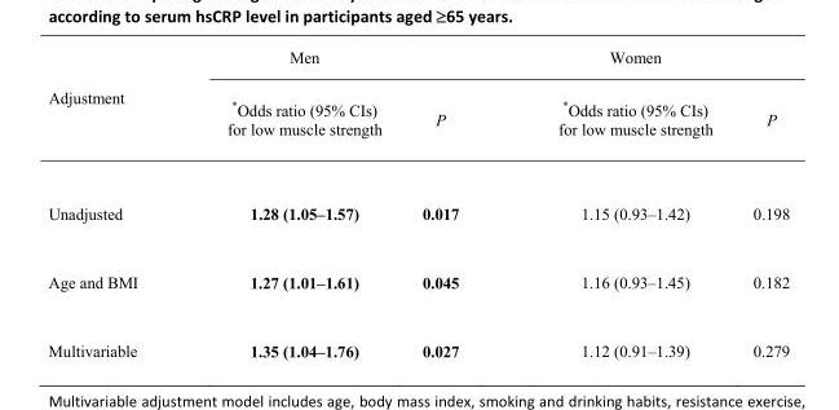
<table><tbody><tr><td rowspan="2">Adjustment</td><td>Men</td><td></td><td>Women</td><td></td></tr><tr><td>*Odds ratio (95% CIs) for low muscle strength</td><td>P</td><td>*Odds ratio (95% CIs) for low muscle strength</td><td>P</td></tr><tr><td>Unadjusted</td><td>1.28 (1.05–1.57)</td><td>0.017</td><td>1.15 (0.93–1.42)</td><td>0.198</td></tr><tr><td>Age and BMI</td><td>1.27 (1.01–1.61)</td><td>0.045</td><td>1.16 (0.93–1.45)</td><td>0.182</td></tr><tr><td>Multivariable</td><td>1.35 (1.04–1.76)</td><td>0.027</td><td>1.12 (0.91–1.39)</td><td>0.279</td></tr></tbody></table>